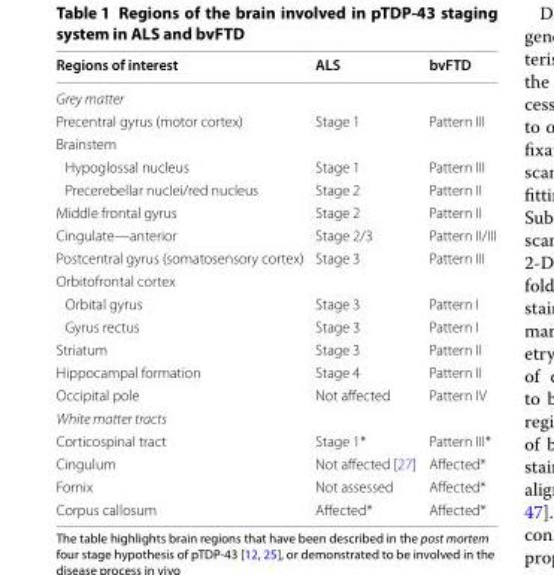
<table><thead><tr><td>Regions of interest</td><td>ALS</td><td>bvFTD</td></tr></thead><tbody><tr><td colspan="3">Grey matter</td></tr><tr><td>Precentral gyrus (motor cortex)</td><td>Stage 1</td><td>Pattern III</td></tr><tr><td colspan="3">Brainstem</td></tr><tr><td>Hypoglossal nucleus</td><td>Stage 1</td><td>Pattern III</td></tr><tr><td>Precerebellar nuclei/red nucleus</td><td>Stage 2</td><td>Pattern II</td></tr><tr><td>Middle frontal gyrus</td><td>Stage 2</td><td>Pattern II</td></tr><tr><td>Cingulate—anterior</td><td>Stage 2/3</td><td>Pattern II/III</td></tr><tr><td>Postcentral gyrus (somatosensory cortex)</td><td>Stage 3</td><td>Pattern III</td></tr><tr><td colspan="3">Orbitofrontal cortex</td></tr><tr><td>Orbital gyrus</td><td>Stage 3</td><td>Pattern I</td></tr><tr><td>Gyrus rectus</td><td>Stage 3</td><td>Pattern I</td></tr><tr><td>Striatum</td><td>Stage 3</td><td>Pattern II</td></tr><tr><td>Hippocampal formation</td><td>Stage 4</td><td>Pattern II</td></tr><tr><td>Occipital pole</td><td>Not affected</td><td>Pattern IV</td></tr><tr><td colspan="3">White matter tracts</td></tr><tr><td>Corticospinal tract</td><td>Stage 1*</td><td>Pattern III*</td></tr><tr><td>Cingulum</td><td>Not affected [27]</td><td>Affected*</td></tr><tr><td>Fornix</td><td>Not assessed</td><td>Affected*</td></tr><tr><td>Corpus callosum</td><td>Affected*</td><td>Affected*</td></tr></tbody></table>